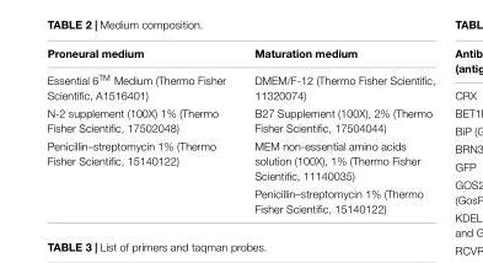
<table><thead><tr><td>Proneural medium</td><td>Maturation medium</td></tr></thead><tbody><tr><td>Essential 6<sup>TM</sup> Medium (Thermo Fisher Scientific, A1516401)</td><td>DMEM/F-12 (Thermo Fisher Scientific, 11320074)</td></tr><tr><td>N-2 supplement (100X) 1% (Thermo Fisher Scientific, 17502048)</td><td>B27 Supplement (100X), 2% (Thermo Fisher Scientific, 17504044)</td></tr><tr><td rowspan="2">Penicillin–streptomycin 1% (Thermo Fisher Scientific, 15140122)</td><td>MEM non-essential amino acids solution (100X), 1% (Thermo Fisher Scientific, 11140035)</td></tr><tr><td>Penicillin–streptomycin 1% (Thermo Fisher Scientific, 15140122)</td></tr></tbody></table>